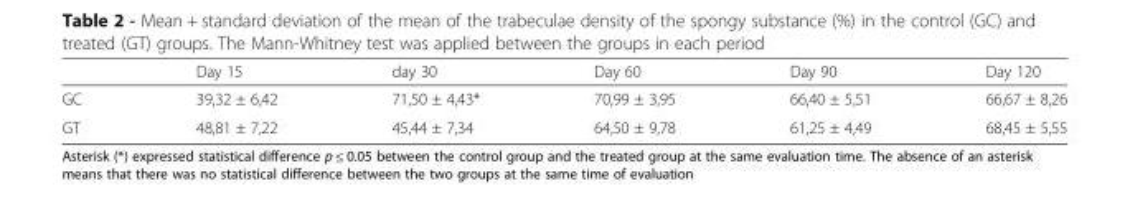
<table><thead><tr><td></td><td>Day 15</td><td>day 30</td><td>Day 60</td><td>Day 90</td><td>Day 120</td></tr></thead><tbody><tr><td>GC</td><td>39,32 ± 6,42</td><td>71,50 ± 4,43*</td><td>70,99 ± 3,95</td><td>66,40 ± 5,51</td><td>66,67 ± 8,26</td></tr><tr><td>GT</td><td>48,81 ± 7,22</td><td>45,44 ± 7,34</td><td>64,50 ± 9,78</td><td>61,25 ± 4,49</td><td>68,45 ± 5,55</td></tr></tbody></table>